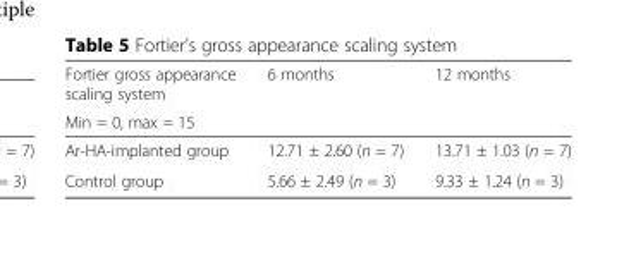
<table><thead><tr><td rowspan="2">Fortier gross appearance scaling system Min = 0, max = 15</td><td rowspan="2">6 months</td><td rowspan="2">12 months</td></tr><tr></tr></thead><tbody><tr><td>Ar-HA-implanted group</td><td>12.71 ± 2.60 (n = 7)</td><td>13.71 ± 1.03 (n = 7)</td></tr><tr><td>Control group</td><td>5.66 ± 2.49 (n = 3)</td><td>9.33 ± 1.24 (n = 3)</td></tr></tbody></table>